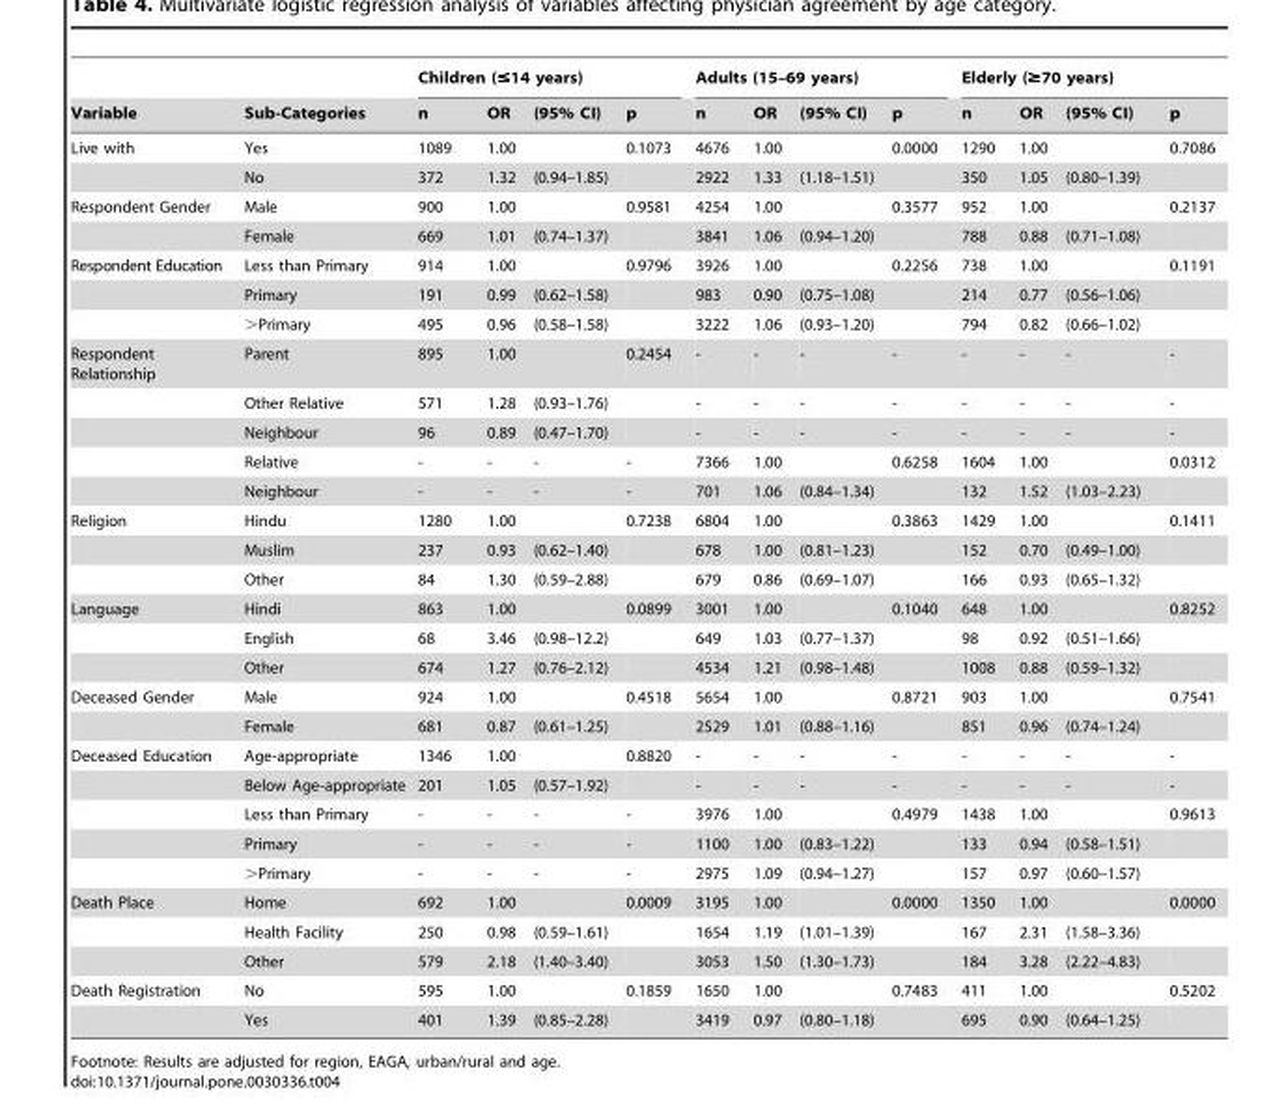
<table><thead><tr><td rowspan="2">Variable</td><td rowspan="2">Sub-Categories</td><td colspan="4">Children (≤14 years)</td><td colspan="4">Adults (15–69 years)</td><td colspan="4">Elderly (≥70 years)</td></tr><tr><td>n</td><td>OR</td><td>(95% CI)</td><td>p</td><td>n</td><td>OR</td><td>(95% CI)</td><td>p</td><td>n</td><td>OR</td><td>(95% CI)</td><td>p</td></tr></thead><tbody><tr><td rowspan="2">Live with</td><td>Yes</td><td>1089</td><td>1.00</td><td></td><td>0.1073</td><td>4676</td><td>1.00</td><td></td><td>0.0000</td><td>1290</td><td>1.00</td><td></td><td>0.7086</td></tr><tr><td>No</td><td>372</td><td>1.32</td><td>(0.94–1.85)</td><td></td><td>2922</td><td>1.33</td><td>(1.18–1.51)</td><td></td><td>350</td><td>1.05</td><td>(0.80–1.39)</td><td></td></tr><tr><td rowspan="2">Respondent Gender</td><td>Male</td><td>900</td><td>1.00</td><td></td><td>0.9581</td><td>4254</td><td>1.00</td><td></td><td>0.3577</td><td>952</td><td>1.00</td><td></td><td>0.2137</td></tr><tr><td>Female</td><td>669</td><td>1.01</td><td>(0.74–1.37)</td><td></td><td>3841</td><td>1.06</td><td>(0.94–1.20)</td><td></td><td>788</td><td>0.88</td><td>(0.71–1.08)</td><td></td></tr><tr><td rowspan="3">Respondent Education</td><td>Less than Primary</td><td>914</td><td>1.00</td><td></td><td>0.9796</td><td>3926</td><td>1.00</td><td></td><td>0.2256</td><td>738</td><td>1.00</td><td></td><td>0.1191</td></tr><tr><td>Primary</td><td>191</td><td>0.99</td><td>(0.62–1.58)</td><td></td><td>983</td><td>0.90</td><td>(0.75–1.08)</td><td></td><td>214</td><td>0.77</td><td>(0.56–1.06)</td><td></td></tr><tr><td>&gt;Primary</td><td>495</td><td>0.96</td><td>(0.58–1.58)</td><td></td><td>3222</td><td>1.06</td><td>(0.93–1.20)</td><td></td><td>794</td><td>0.82</td><td>(0.66–1.02)</td><td></td></tr><tr><td rowspan="5">Respondent Relationship</td><td>Parent</td><td>895</td><td>1.00</td><td></td><td>0.2454</td><td>-</td><td>-</td><td>-</td><td>-</td><td>-</td><td>-</td><td>-</td><td>-</td></tr><tr><td>Other Relative</td><td>571</td><td>1.28</td><td>(0.93–1.76)</td><td></td><td>-</td><td>-</td><td>-</td><td>-</td><td>-</td><td>-</td><td>-</td><td>-</td></tr><tr><td>Neighbour</td><td>96</td><td>0.89</td><td>(0.47–1.70)</td><td></td><td>-</td><td>-</td><td>-</td><td>-</td><td>-</td><td>-</td><td>-</td><td>-</td></tr><tr><td>Relative</td><td>-</td><td>-</td><td>-</td><td>-</td><td>7366</td><td>1.00</td><td></td><td>0.6258</td><td>1604</td><td>1.00</td><td></td><td>0.0312</td></tr><tr><td>Neighbour</td><td>-</td><td>-</td><td>-</td><td>-</td><td>701</td><td>1.06</td><td>(0.84–1.34)</td><td></td><td>132</td><td>1.52</td><td>(1.03–2.23)</td><td></td></tr><tr><td rowspan="3">Religion</td><td>Hindu</td><td>1280</td><td>1.00</td><td></td><td>0.7238</td><td>6804</td><td>1.00</td><td></td><td>0.3863</td><td>1429</td><td>1.00</td><td></td><td>0.1411</td></tr><tr><td>Muslim</td><td>237</td><td>0.93</td><td>(0.62–1.40)</td><td></td><td>678</td><td>1.00</td><td>(0.81–1.23)</td><td></td><td>152</td><td>0.70</td><td>(0.49–1.00)</td><td></td></tr><tr><td>Other</td><td>84</td><td>1.30</td><td>(0.59–2.88)</td><td></td><td>679</td><td>0.86</td><td>(0.69–1.07)</td><td></td><td>166</td><td>0.93</td><td>(0.65–1.32)</td><td></td></tr><tr><td rowspan="3">Language</td><td>Hindi</td><td>863</td><td>1.00</td><td></td><td>0.0899</td><td>3001</td><td>1.00</td><td></td><td>0.1040</td><td>648</td><td>1.00</td><td></td><td>0.8252</td></tr><tr><td>English</td><td>68</td><td>3.46</td><td>(0.98–12.2)</td><td></td><td>649</td><td>1.03</td><td>(0.77–1.37)</td><td></td><td>98</td><td>0.92</td><td>(0.51–1.66)</td><td></td></tr><tr><td>Other</td><td>674</td><td>1.27</td><td>(0.76–2.12)</td><td></td><td>4534</td><td>1.21</td><td>(0.98–1.48)</td><td></td><td>1008</td><td>0.88</td><td>(0.59–1.32)</td><td></td></tr><tr><td rowspan="2">Deceased Gender</td><td>Male</td><td>924</td><td>1.00</td><td></td><td>0.4518</td><td>5654</td><td>1.00</td><td></td><td>0.8721</td><td>903</td><td>1.00</td><td></td><td>0.7541</td></tr><tr><td>Female</td><td>681</td><td>0.87</td><td>(0.61–1.25)</td><td></td><td>2529</td><td>1.01</td><td>(0.88–1.16)</td><td></td><td>851</td><td>0.96</td><td>(0.74–1.24)</td><td></td></tr><tr><td rowspan="5">Deceased Education</td><td>Age-appropriate</td><td>1346</td><td>1.00</td><td></td><td>0.8820</td><td>-</td><td>-</td><td>-</td><td>-</td><td>-</td><td>-</td><td>-</td><td>-</td></tr><tr><td>Below Age-appropriate</td><td>201</td><td>1.05</td><td>(0.57–1.92)</td><td></td><td>-</td><td>-</td><td>-</td><td>-</td><td>-</td><td>-</td><td>-</td><td>-</td></tr><tr><td>Less than Primary</td><td>-</td><td>-</td><td>-</td><td>-</td><td>3976</td><td>1.00</td><td></td><td>0.4979</td><td>1438</td><td>1.00</td><td></td><td>0.9613</td></tr><tr><td>Primary</td><td>-</td><td>-</td><td>-</td><td>-</td><td>1100</td><td>1.00</td><td>(0.83–1.22)</td><td></td><td>133</td><td>0.94</td><td>(0.58–1.51)</td><td></td></tr><tr><td>&gt;Primary</td><td>-</td><td>-</td><td>-</td><td>-</td><td>2975</td><td>1.09</td><td>(0.94–1.27)</td><td></td><td>157</td><td>0.97</td><td>(0.60–1.57)</td><td></td></tr><tr><td rowspan="3">Death Place</td><td>Home</td><td>692</td><td>1.00</td><td></td><td>0.0009</td><td>3195</td><td>1.00</td><td></td><td>0.0000</td><td>1350</td><td>1.00</td><td></td><td>0.0000</td></tr><tr><td>Health Facility</td><td>250</td><td>0.98</td><td>(0.59–1.61)</td><td></td><td>1654</td><td>1.19</td><td>(1.01–1.39)</td><td></td><td>167</td><td>2.31</td><td>(1.58–3.36)</td><td></td></tr><tr><td>Other</td><td>579</td><td>2.18</td><td>(1.40–3.40)</td><td></td><td>3053</td><td>1.50</td><td>(1.30–1.73)</td><td></td><td>184</td><td>3.28</td><td>(2.22–4.83)</td><td></td></tr><tr><td rowspan="2">Death Registration</td><td>No</td><td>595</td><td>1.00</td><td></td><td>0.1859</td><td>1650</td><td>1.00</td><td></td><td>0.7483</td><td>411</td><td>1.00</td><td></td><td>0.5202</td></tr><tr><td>Yes</td><td>401</td><td>1.39</td><td>(0.85–2.28)</td><td></td><td>3419</td><td>0.97</td><td>(0.80–1.18)</td><td></td><td>695</td><td>0.90</td><td>(0.64–1.25)</td><td></td></tr></tbody></table>